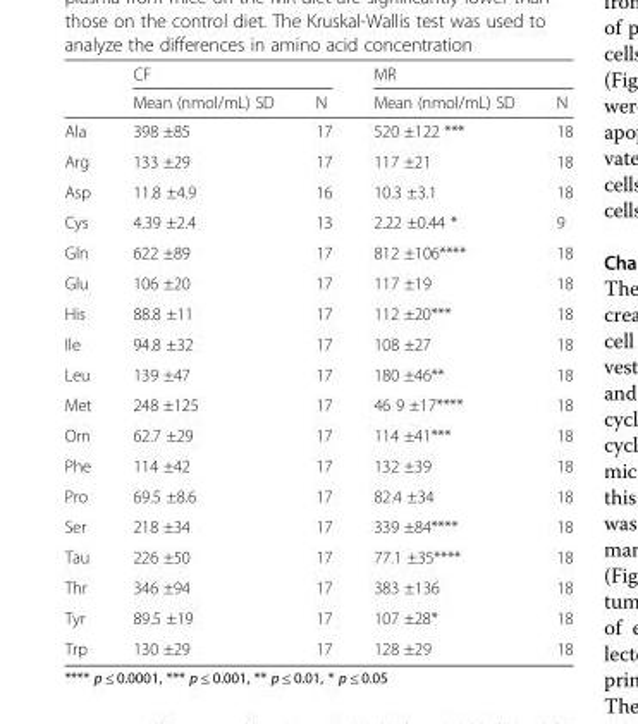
<table><thead><tr><td rowspan="2"></td><td colspan="2">CF</td><td colspan="2">MR</td></tr><tr><td>Mean (nmol/mL) SD</td><td>N</td><td>Mean (nmol/mL) SD</td><td>N</td></tr></thead><tbody><tr><td>Ala</td><td>398 ±85</td><td>17</td><td>520 ±122 ***</td><td>18</td></tr><tr><td>Arg</td><td>133 ±29</td><td>17</td><td>117 ±21</td><td>18</td></tr><tr><td>Asp</td><td>11.8 ±4.9</td><td>16</td><td>10.3 ±3.1</td><td>18</td></tr><tr><td>Cys</td><td>4.39 ±2.4</td><td>13</td><td>2.22 ±0.44 *</td><td>9</td></tr><tr><td>Gln</td><td>622 ±89</td><td>17</td><td>812 ±106****</td><td>18</td></tr><tr><td>Glu</td><td>106 ±20</td><td>17</td><td>117 ±19</td><td>18</td></tr><tr><td>His</td><td>88.8 ±11</td><td>17</td><td>112 ±20***</td><td>18</td></tr><tr><td>Ile</td><td>94.8 ±32</td><td>17</td><td>108 ±27</td><td>18</td></tr><tr><td>Leu</td><td>139 ±47</td><td>17</td><td>180 ±46**</td><td>18</td></tr><tr><td>Met</td><td>248 ±125</td><td>17</td><td>46 9 ±17****</td><td>18</td></tr><tr><td>Orn</td><td>62.7 ±29</td><td>17</td><td>114 ±41***</td><td>18</td></tr><tr><td>Phe</td><td>114 ±42</td><td>17</td><td>132 ±39</td><td>18</td></tr><tr><td>Pro</td><td>69.5 ±8.6</td><td>17</td><td>82.4 ±34</td><td>18</td></tr><tr><td>Ser</td><td>218 ±34</td><td>17</td><td>339 ±84****</td><td>18</td></tr><tr><td>Tau</td><td>226 ±50</td><td>17</td><td>77.1 ±35****</td><td>18</td></tr><tr><td>Thr</td><td>346 ±94</td><td>17</td><td>383 ±136</td><td>18</td></tr><tr><td>Tyr</td><td>89.5 ±19</td><td>17</td><td>107 ±28*</td><td>18</td></tr><tr><td>Trp</td><td>130 ±29</td><td>17</td><td>128 ±29</td><td>18</td></tr></tbody></table>